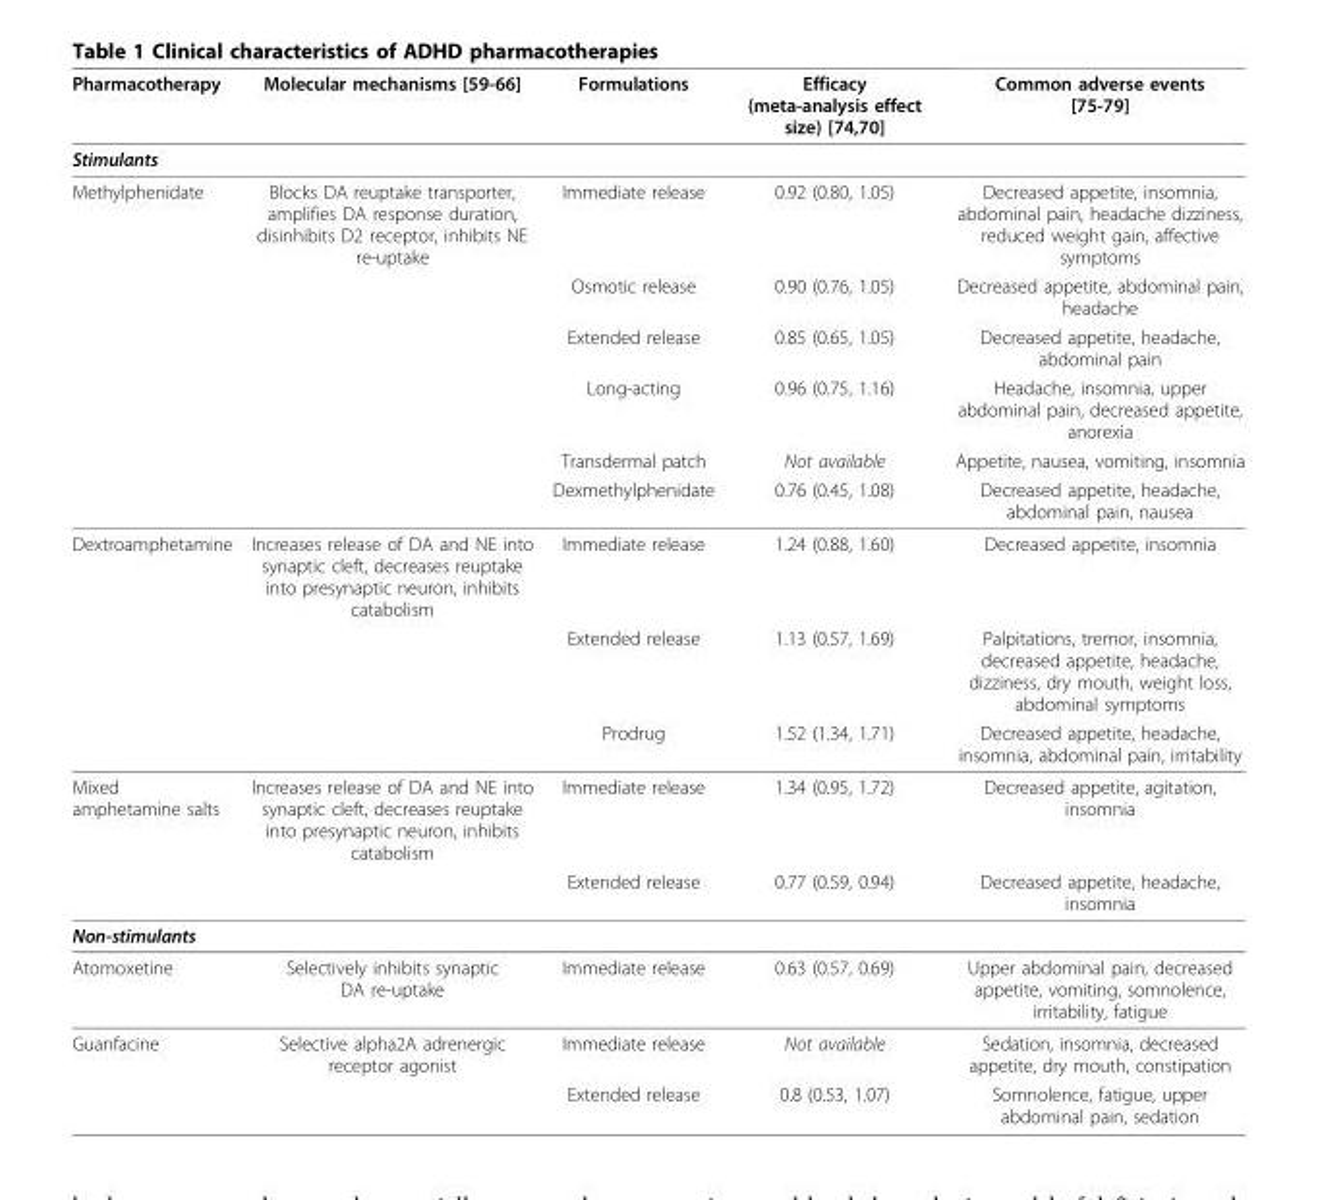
<table><thead><tr><td>Pharmacotherapy</td><td>Molecular mechanisms [59-66]</td><td>Formulations</td><td>Efficacy (meta-analysis effect size) [74,70]</td><td>Common adverse events [75-79]</td></tr></thead><tbody><tr><td colspan="5">Stimulants</td></tr><tr><td rowspan="6">Methylphenidate</td><td>Blocks DA reuptake transporter, amplifies DA response duration, disinhibits D2 receptor, inhibits NE re-uptake</td><td>Immediate release</td><td>0.92 (0.80, 1.05)</td><td>Decreased appetite, insomnia, abdominal pain, headache dizziness, reduced weight gain, affective symptoms</td></tr><tr><td></td><td>Osmotic release</td><td>0.90 (0.76, 1.05)</td><td>Decreased appetite, abdominal pain, headache</td></tr><tr><td></td><td>Extended release</td><td>0.85 (0.65, 1.05)</td><td>Decreased appetite, headache, abdominal pain</td></tr><tr><td></td><td>Long-acting</td><td>0.96 (0.75, 1.16)</td><td>Headache, insomnia, upper abdominal pain, decreased appetite, anorexia</td></tr><tr><td></td><td>Transdermal patch</td><td>Not available</td><td>Appetite, nausea, vomiting, insomnia</td></tr><tr><td></td><td>Dexmethylphenidate</td><td>0.76 (0.45, 1.08)</td><td>Decreased appetite, headache, abdominal pain, nausea</td></tr><tr><td rowspan="3">Dextroamphetamine</td><td>Increases release of DA and NE into synaptic cleft, decreases reuptake into presynaptic neuron, inhibits catabolism</td><td>Immediate release</td><td>1.24 (0.88, 1.60)</td><td>Decreased appetite, insomnia</td></tr><tr><td></td><td>Extended release</td><td>1.13 (0.57, 1.69)</td><td>Palpitations, tremor, insomnia, decreased appetite, headache, dizziness, dry mouth, weight loss, abdominal symptoms</td></tr><tr><td></td><td>Prodrug</td><td>1.52 (1.34, 1.71)</td><td>Decreased appetite, headache, insomnia, abdominal pain, irritability</td></tr><tr><td rowspan="2">Mixed amphetamine salts</td><td>Increases release of DA and NE into synaptic cleft, decreases reuptake into presynaptic neuron, inhibits catabolism</td><td>Immediate release</td><td>1.34 (0.95, 1.72)</td><td>Decreased appetite, agitation, insomnia</td></tr><tr><td></td><td>Extended release</td><td>0.77 (0.59, 0.94)</td><td>Decreased appetite, headache, insomnia</td></tr><tr><td colspan="5">Non-stimulants</td></tr><tr><td>Atomoxetine</td><td>Selectively inhibits synaptic DA re-uptake</td><td>Immediate release</td><td>0.63 (0.57, 0.69)</td><td>Upper abdominal pain, decreased appetite, vomiting, somnolence, irritability, fatigue</td></tr><tr><td rowspan="2">Guanfacine</td><td>Selective alpha2A adrenergic receptor agonist</td><td>Immediate release</td><td>Not available</td><td>Sedation, insomnia, decreased appetite, dry mouth, constipation</td></tr><tr><td></td><td>Extended release</td><td>0.8 (0.53, 1.07)</td><td>Somnolence, fatigue, upper abdominal pain, sedation</td></tr></tbody></table>